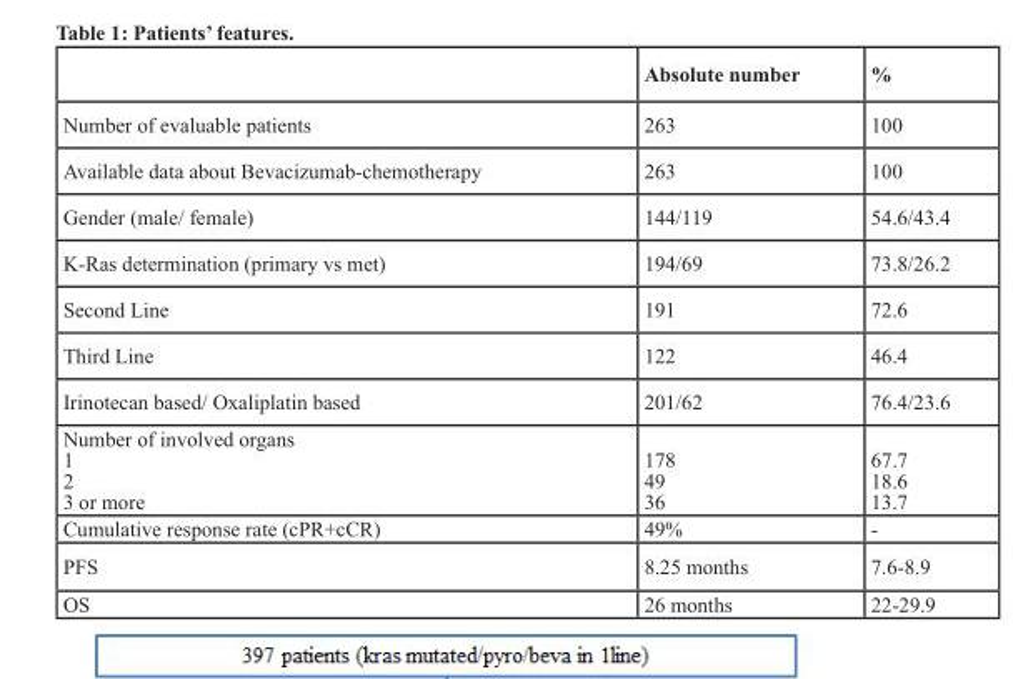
<table><thead><tr><td></td><td>Absolute number</td><td>%</td></tr></thead><tbody><tr><td>Number of evaluable patients</td><td>263</td><td>100</td></tr><tr><td>Available data about Bevacizumab-chemotherapy</td><td>263</td><td>100</td></tr><tr><td>Gender (male/ female)</td><td>144/119</td><td>54.6/43.4</td></tr><tr><td>K-Ras determination (primary vs met)</td><td>194/69</td><td>73.8/26.2</td></tr><tr><td>Second Line</td><td>191</td><td>72.6</td></tr><tr><td>Third Line</td><td>122</td><td>46.4</td></tr><tr><td>Irinotecan based/ Oxaliplatin based</td><td>201/62</td><td>76.4/23.6</td></tr><tr><td>Number of involved organs 1 2 3 or more</td><td>178 49 36</td><td>67.7 18.6 13.7</td></tr><tr><td>Cumulative response rate (cPR+cCR)</td><td>49%</td><td>-</td></tr><tr><td>PFS</td><td>8.25 months</td><td>7.6-8.9</td></tr><tr><td>OS</td><td>26 months</td><td>22-29.9</td></tr></tbody></table>